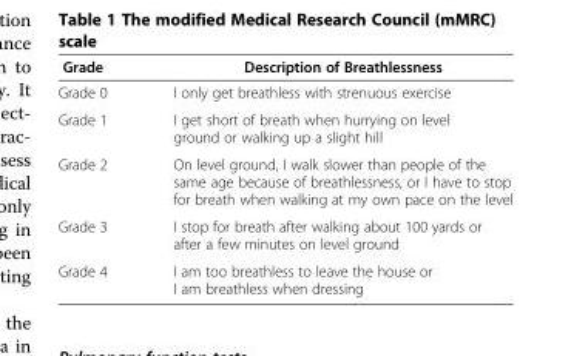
<table><thead><tr><td>Grade</td><td>Description of Breathlessness</td></tr></thead><tbody><tr><td>Grade 0</td><td>I only get breathless with strenuous exercise</td></tr><tr><td>Grade 1</td><td>I get short of breath when hurrying on level ground or walking up a slight hill</td></tr><tr><td>Grade 2</td><td>On level ground, I walk slower than people of the same age because of breathlessness, or I have to stop for breath when walking at my own pace on the level</td></tr><tr><td>Grade 3</td><td>I stop for breath after walking about 100 yards or after a few minutes on level ground</td></tr><tr><td>Grade 4</td><td>I am too breathless to leave the house or I am breathless when dressing</td></tr></tbody></table>